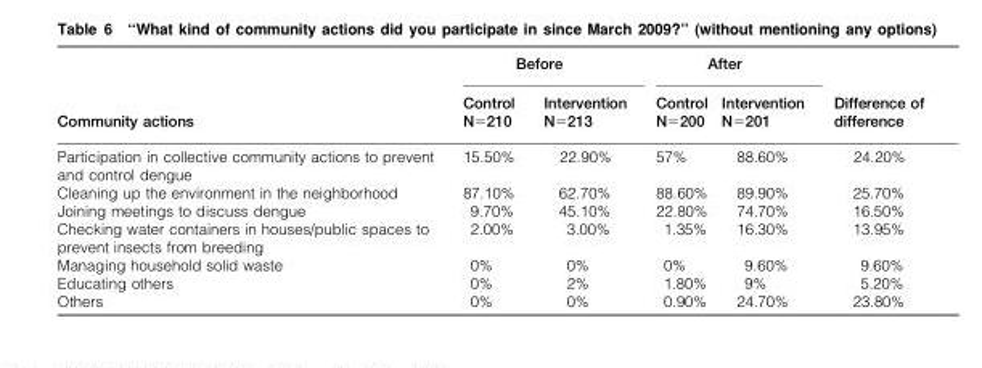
<table><thead><tr><td rowspan="2">Community actions</td><td colspan="2">Before</td><td colspan="2">After</td><td rowspan="2">Difference of difference</td></tr><tr><td>Control N=210</td><td>Intervention N=213</td><td>Control N=200</td><td>Intervention N=201</td></tr></thead><tbody><tr><td>Participation in collective community actions to prevent and control dengue</td><td>15.50%</td><td>22.90%</td><td>57%</td><td>88.60%</td><td>24.20%</td></tr><tr><td>Cleaning up the environment in the neighborhood</td><td>87.10%</td><td>62.70%</td><td>88.60%</td><td>89.90%</td><td>25.70%</td></tr><tr><td>Joining meetings to discuss dengue</td><td>9.70%</td><td>45.10%</td><td>22.80%</td><td>74.70%</td><td>16.50%</td></tr><tr><td>Checking water containers in houses/public spaces to prevent insects from breeding</td><td>2.00%</td><td>3.00%</td><td>1.35%</td><td>16.30%</td><td>13.95%</td></tr><tr><td>Managing household solid waste</td><td>0%</td><td>0%</td><td>0%</td><td>9.60%</td><td>9.60%</td></tr><tr><td>Educating others</td><td>0%</td><td>2%</td><td>1.80%</td><td>9%</td><td>5.20%</td></tr><tr><td>Others</td><td>0%</td><td>0%</td><td>0.90%</td><td>24.70%</td><td>23.80%</td></tr></tbody></table>